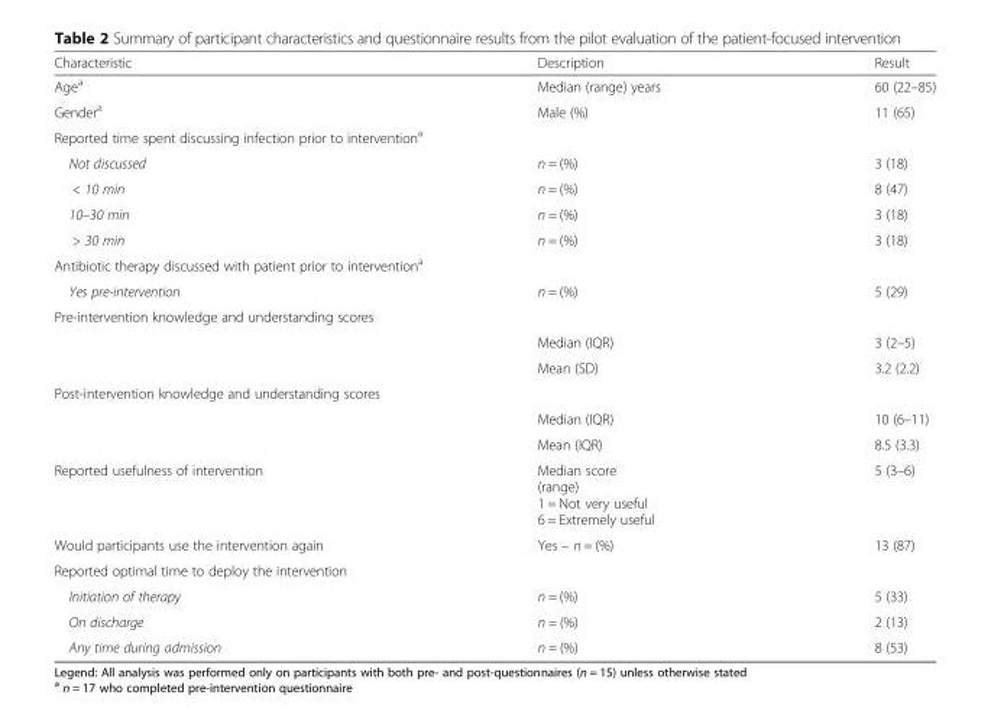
<table><thead><tr><td>Characteristic</td><td>Description</td><td>Result</td></tr></thead><tbody><tr><td>Age<sup>a</sup></td><td>Median (range) years</td><td>60 (22–85)</td></tr><tr><td>Gender<sup>a</sup></td><td>Male (%)</td><td>11 (65)</td></tr><tr><td colspan="3">Reported time spent discussing infection prior to intervention<sup>a</sup></td></tr><tr><td>Not discussed</td><td>n = (%)</td><td>3 (18)</td></tr><tr><td>&lt; 10 min</td><td>n = (%)</td><td>8 (47)</td></tr><tr><td>10–30 min</td><td>n = (%)</td><td>3 (18)</td></tr><tr><td>&gt; 30 min</td><td>n = (%)</td><td>3 (18)</td></tr><tr><td colspan="3">Antibiotic therapy discussed with patient prior to intervention<sup>a</sup></td></tr><tr><td>Yes pre-intervention</td><td>n = (%)</td><td>5 (29)</td></tr><tr><td colspan="3">Pre-intervention knowledge and understanding scores</td></tr><tr><td></td><td>Median (IQR)</td><td>3 (2–5)</td></tr><tr><td></td><td>Mean (SD)</td><td>3.2 (2.2)</td></tr><tr><td colspan="3">Post-intervention knowledge and understanding scores</td></tr><tr><td></td><td>Median (IQR)</td><td>10 (6–11)</td></tr><tr><td></td><td>Mean (IQR)</td><td>8.5 (3.3)</td></tr><tr><td>Reported usefulness of intervention</td><td>Median score (range) 1 = Not very useful 6 = Extremely useful</td><td>5 (3–6)</td></tr><tr><td>Would participants use the intervention again</td><td>Yes – n = (%)</td><td>13 (87)</td></tr><tr><td colspan="3">Reported optimal time to deploy the intervention</td></tr><tr><td>Initiation of therapy</td><td>n = (%)</td><td>5 (33)</td></tr><tr><td>On discharge</td><td>n = (%)</td><td>2 (13)</td></tr><tr><td>Any time during admission</td><td>n = (%)</td><td>8 (53)</td></tr></tbody></table>